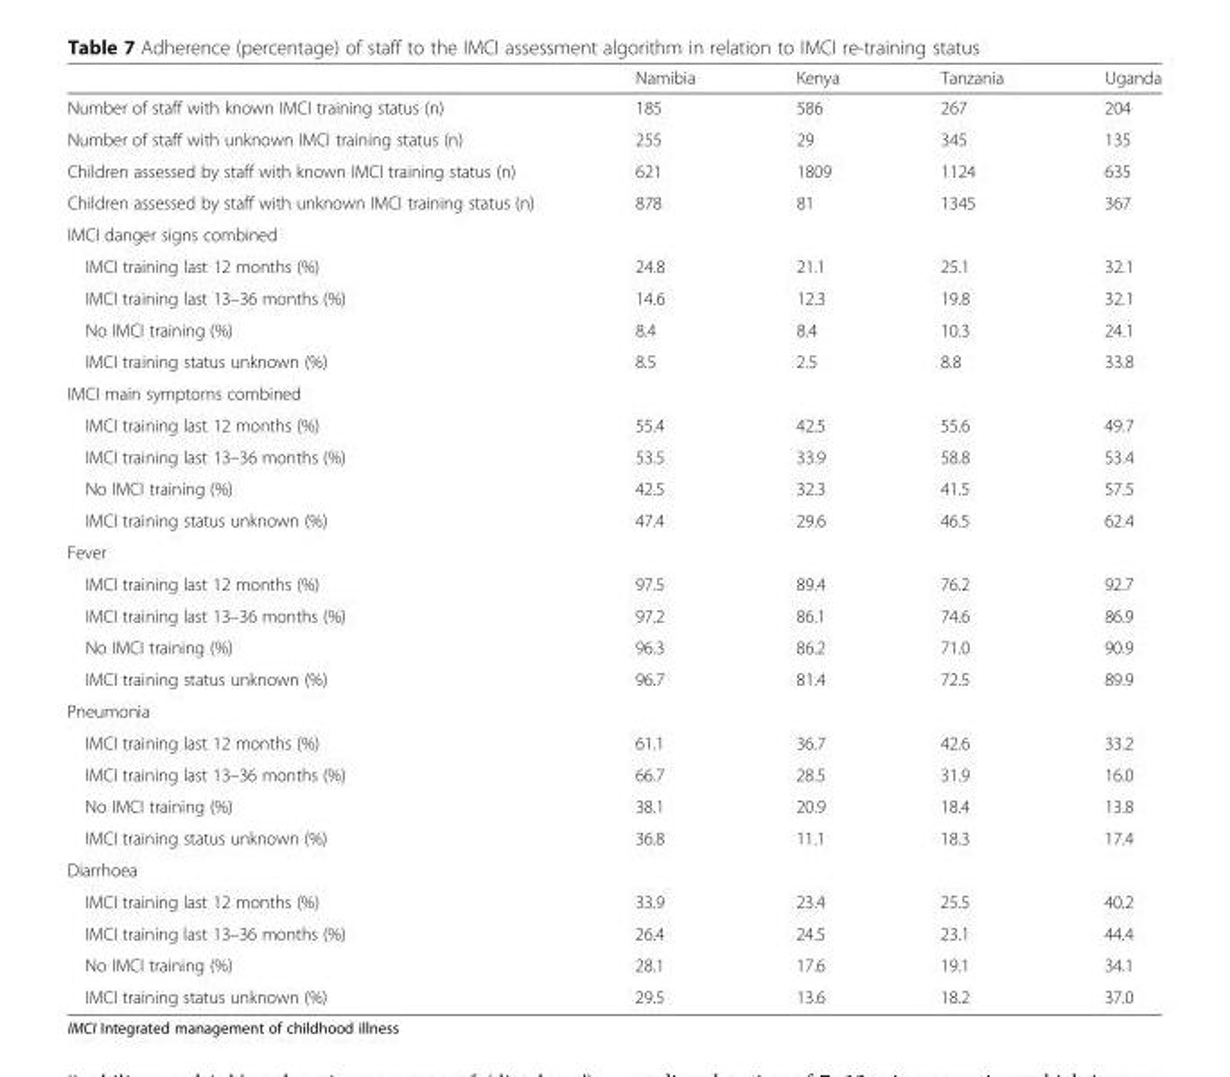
<table><thead><tr><td></td><td>Namibia</td><td>Kenya</td><td>Tanzania</td><td>Uganda</td></tr></thead><tbody><tr><td>Number of staff with known IMCI training status (n)</td><td>185</td><td>586</td><td>267</td><td>204</td></tr><tr><td>Number of staff with unknown IMCI training status (n)</td><td>255</td><td>29</td><td>345</td><td>135</td></tr><tr><td>Children assessed by staff with known IMCI training status (n)</td><td>621</td><td>1809</td><td>1124</td><td>635</td></tr><tr><td>Children assessed by staff with unknown IMCI training status (n)</td><td>878</td><td>81</td><td>1345</td><td>367</td></tr><tr><td colspan="5">IMCI danger signs combined</td></tr><tr><td>IMCI training last 12 months (%)</td><td>24.8</td><td>21.1</td><td>25.1</td><td>32.1</td></tr><tr><td>IMCI training last 13–36 months (%)</td><td>14.6</td><td>12.3</td><td>19.8</td><td>32.1</td></tr><tr><td>No IMCI training (%)</td><td>8.4</td><td>8.4</td><td>10.3</td><td>24.1</td></tr><tr><td>IMCI training status unknown (%)</td><td>8.5</td><td>2.5</td><td>8.8</td><td>33.8</td></tr><tr><td colspan="5">IMCI main symptoms combined</td></tr><tr><td>IMCI training last 12 months (%)</td><td>55.4</td><td>42.5</td><td>55.6</td><td>49.7</td></tr><tr><td>IMCI training last 13–36 months (%)</td><td>53.5</td><td>33.9</td><td>58.8</td><td>53.4</td></tr><tr><td>No IMCI training (%)</td><td>42.5</td><td>32.3</td><td>41.5</td><td>57.5</td></tr><tr><td>IMCI training status unknown (%)</td><td>47.4</td><td>29.6</td><td>46.5</td><td>62.4</td></tr><tr><td colspan="5">Fever</td></tr><tr><td>IMCI training last 12 months (%)</td><td>97.5</td><td>89.4</td><td>76.2</td><td>92.7</td></tr><tr><td>IMCI training last 13–36 months (%)</td><td>97.2</td><td>86.1</td><td>74.6</td><td>86.9</td></tr><tr><td>No IMCI training (%)</td><td>96.3</td><td>86.2</td><td>71.0</td><td>90.9</td></tr><tr><td>IMCI training status unknown (%)</td><td>96.7</td><td>81.4</td><td>72.5</td><td>89.9</td></tr><tr><td colspan="5">Pneumonia</td></tr><tr><td>IMCI training last 12 months (%)</td><td>61.1</td><td>36.7</td><td>42.6</td><td>33.2</td></tr><tr><td>IMCI training last 13–36 months (%)</td><td>66.7</td><td>28.5</td><td>31.9</td><td>16.0</td></tr><tr><td>No IMCI training (%)</td><td>38.1</td><td>20.9</td><td>18.4</td><td>13.8</td></tr><tr><td>IMCI training status unknown (%)</td><td>36.8</td><td>11.1</td><td>18.3</td><td>17.4</td></tr><tr><td colspan="5">Diarrhoea</td></tr><tr><td>IMCI training last 12 months (%)</td><td>33.9</td><td>23.4</td><td>25.5</td><td>40.2</td></tr><tr><td>IMCI training last 13–36 months (%)</td><td>26.4</td><td>24.5</td><td>23.1</td><td>44.4</td></tr><tr><td>No IMCI training (%)</td><td>28.1</td><td>17.6</td><td>19.1</td><td>34.1</td></tr><tr><td>IMCI training status unknown (%)</td><td>29.5</td><td>13.6</td><td>18.2</td><td>37.0</td></tr></tbody></table>